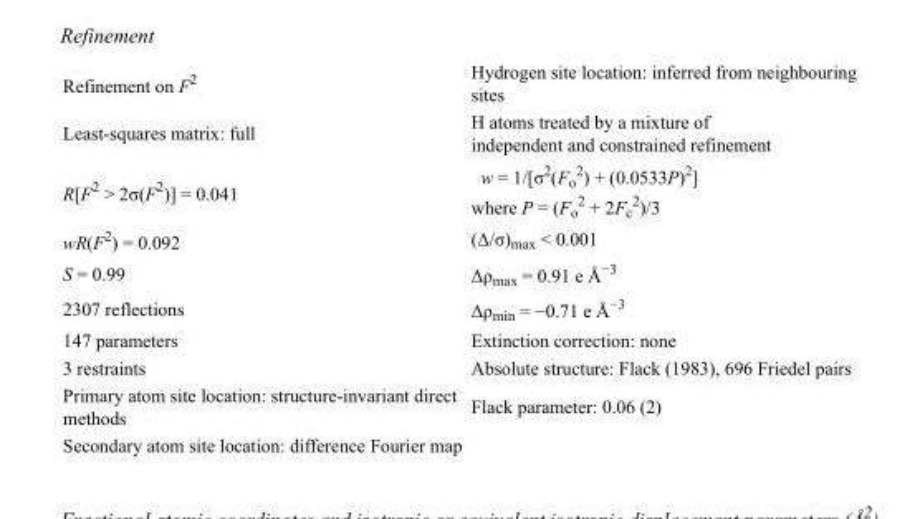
<table><tbody><tr><td>Refinement on F<sup>2</sup></td><td>Hydrogen site location: inferred from neighbouring sites</td></tr><tr><td>Least-squares matrix: full</td><td>H atoms treated by a mixture of independent and constrained refinement</td></tr><tr><td>R[F<sup>2</sup> &gt; 2σ(F<sup>2</sup>)] = 0.041</td><td>w = 1/[σ<sup>2</sup>(F<sub>o</sub> <sup>2</sup>) + (0.0533P)<sup>2</sup>] where P = (F<sub>o</sub> <sup>2</sup> + 2F<sub>c</sub> <sup>2</sup>)/3</td></tr><tr><td>wR(F<sup>2</sup>) = 0.092</td><td>(Δ/σ)<sub>max</sub> &lt; 0.001</td></tr><tr><td>S = 0.99</td><td>Δρ<sub>max</sub> = 0.91 e Å<sup>−3</sup></td></tr><tr><td>2307 reflections</td><td>Δρ<sub>min</sub> = −0.71 e Å<sup>−3</sup></td></tr><tr><td>147 parameters</td><td>Extinction correction: none</td></tr><tr><td>3 restraints</td><td>Absolute structure: Flack (1983), 696 Friedel pairs</td></tr><tr><td>Primary atom site location: structure-invariant direct methods</td><td>Flack parameter: 0.06 (2)</td></tr><tr><td>Secondary atom site location: difference Fourier map</td><td></td></tr></tbody></table>